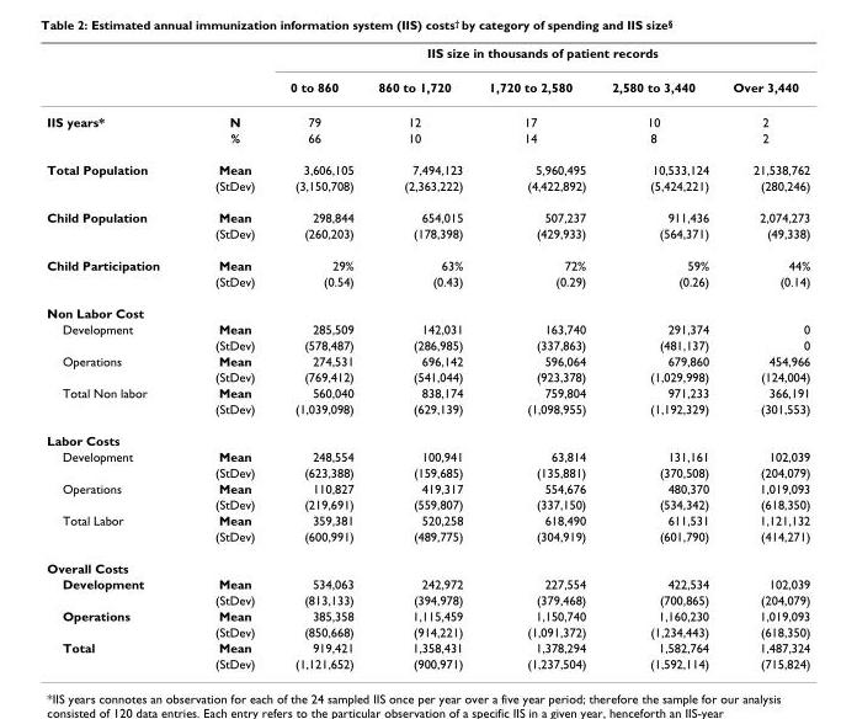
<table><thead><tr><td rowspan="2"></td><td rowspan="2"></td><td colspan="5">IIS size in thousands of patient records</td></tr><tr><td>0 to 860</td><td>860 to 1,720</td><td>1,720 to 2,580</td><td>2,580 to 3,440</td><td>Over 3,440</td></tr></thead><tbody><tr><td rowspan="2">IIS years*</td><td>N</td><td>79</td><td>12</td><td>17</td><td>10</td><td>2</td></tr><tr><td>%</td><td>66</td><td>10</td><td>14</td><td>8</td><td>2</td></tr><tr><td rowspan="2">Total Population</td><td>Mean</td><td>3,606,105</td><td>7,494,123</td><td>5,960,495</td><td>10,533,124</td><td>21,538,762</td></tr><tr><td>(StDev)</td><td>(3,150,708)</td><td>(2,363,222)</td><td>(4,422,892)</td><td>(5,424,221)</td><td>(280,246)</td></tr><tr><td rowspan="2">Child Population</td><td>Mean</td><td>298,844</td><td>654,015</td><td>507,237</td><td>911,436</td><td>2,074,273</td></tr><tr><td>(StDev)</td><td>(260,203)</td><td>(178,398)</td><td>(429,933)</td><td>(564,371)</td><td>(49,338)</td></tr><tr><td rowspan="2">Child Participation</td><td>Mean</td><td>29%</td><td>63%</td><td>72%</td><td>59%</td><td>44%</td></tr><tr><td>(StDev)</td><td>(0.54)</td><td>(0.43)</td><td>(0.29)</td><td>(0.26)</td><td>(0.14)</td></tr><tr><td colspan="7">Non Labor Cost</td></tr><tr><td rowspan="2">Development</td><td>Mean</td><td>285,509</td><td>142,031</td><td>163,740</td><td>291,374</td><td>0</td></tr><tr><td>(StDev)</td><td>(578,487)</td><td>(286,985)</td><td>(337,863)</td><td>(481,137)</td><td>0</td></tr><tr><td rowspan="2">Operations</td><td>Mean</td><td>274,531</td><td>696,142</td><td>596,064</td><td>679,860</td><td>454,966</td></tr><tr><td>(StDev)</td><td>(769,412)</td><td>(541,044)</td><td>(923,378)</td><td>(1,029,998)</td><td>(124,004)</td></tr><tr><td rowspan="2">Total Non labor</td><td>Mean</td><td>560,040</td><td>838,174</td><td>759,804</td><td>971,233</td><td>366,191</td></tr><tr><td>(StDev)</td><td>(1,039,098)</td><td>(629,139)</td><td>(1,098,955)</td><td>(1,192,329)</td><td>(301,553)</td></tr><tr><td colspan="7">Labor Costs</td></tr><tr><td rowspan="2">Development</td><td>Mean</td><td>248,554</td><td>100,941</td><td>63,814</td><td>131,161</td><td>102,039</td></tr><tr><td>(StDev)</td><td>(623,388)</td><td>(159,685)</td><td>(135,881)</td><td>(370,508)</td><td>(204,079)</td></tr><tr><td rowspan="2">Operations</td><td>Mean</td><td>110,827</td><td>419,317</td><td>554,676</td><td>480,370</td><td>1,019,093</td></tr><tr><td>(StDev)</td><td>(219,691)</td><td>(559,807)</td><td>(337,150)</td><td>(534,342)</td><td>(618,350)</td></tr><tr><td rowspan="2">Total Labor</td><td>Mean</td><td>359,381</td><td>520,258</td><td>618,490</td><td>611,531</td><td>1,121,132</td></tr><tr><td>(StDev)</td><td>(600,991)</td><td>(489,775)</td><td>(304,919)</td><td>(601,790)</td><td>(414,271)</td></tr><tr><td colspan="7">Overall Costs</td></tr><tr><td rowspan="2">Development</td><td>Mean</td><td>534,063</td><td>242,972</td><td>227,554</td><td>422,534</td><td>102,039</td></tr><tr><td>(StDev)</td><td>(813,133)</td><td>(394,978)</td><td>(379,468)</td><td>(700,865)</td><td>(204,079)</td></tr><tr><td rowspan="2">Operations</td><td>Mean</td><td>385,358</td><td>1,115,459</td><td>1,150,740</td><td>1,160,230</td><td>1,019,093</td></tr><tr><td>(StDev)</td><td>(850,668)</td><td>(914,221)</td><td>(1,091,372)</td><td>(1,234,443)</td><td>(618,350)</td></tr><tr><td rowspan="2">Total</td><td>Mean</td><td>919,421</td><td>1,358,431</td><td>1,378,294</td><td>1,582,764</td><td>1,487,324</td></tr><tr><td>(StDev)</td><td>(1,121,652)</td><td>(900,971)</td><td>(1,237,504)</td><td>(1,592,114)</td><td>(715,824)</td></tr></tbody></table>